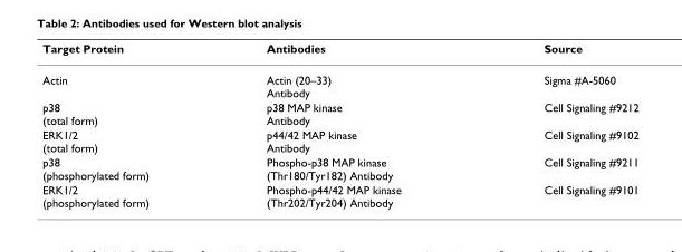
<table><thead><tr><td>Target Protein</td><td>Antibodies</td><td>Source</td></tr></thead><tbody><tr><td>Actin</td><td>Actin (20–33) Antibody</td><td>Sigma #A-5060</td></tr><tr><td>p38 (total form)</td><td>p38 MAP kinase Antibody</td><td>Cell Signaling #9212</td></tr><tr><td>ERK1/2 (total form)</td><td>p44/42 MAP kinase Antibody</td><td>Cell Signaling #9102</td></tr><tr><td>p38 (phosphorylated form)</td><td>Phospho-p38 MAP kinase (Thr180/Tyr182) Antibody</td><td>Cell Signaling #9211</td></tr><tr><td>ERK1/2 (phosphorylated form)</td><td>Phospho-p44/42 MAP kinase (Thr202/Tyr204) Antibody</td><td>Cell Signaling #9101</td></tr></tbody></table>